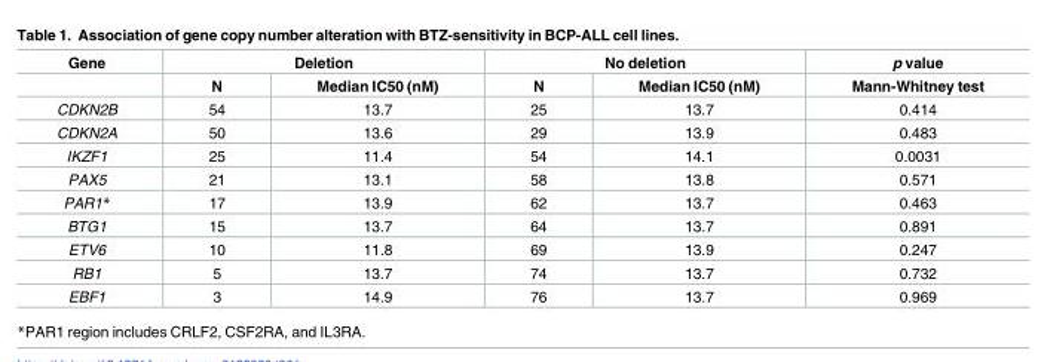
<table><thead><tr><td rowspan="2">Gene</td><td colspan="2">Deletion</td><td colspan="2">No deletion</td><td rowspan="2">p value Mann-Whitney test</td></tr><tr><td>N</td><td>Median IC50 (nM)</td><td>N</td><td>Median IC50 (nM)</td></tr></thead><tbody><tr><td>CDKN2B</td><td>54</td><td>13.7</td><td>25</td><td>13.7</td><td>0.414</td></tr><tr><td>CDKN2A</td><td>50</td><td>13.6</td><td>29</td><td>13.9</td><td>0.483</td></tr><tr><td>IKZF1</td><td>25</td><td>11.4</td><td>54</td><td>14.1</td><td>0.0031</td></tr><tr><td>PAX5</td><td>21</td><td>13.1</td><td>58</td><td>13.8</td><td>0.571</td></tr><tr><td>PAR1*</td><td>17</td><td>13.9</td><td>62</td><td>13.7</td><td>0.463</td></tr><tr><td>BTG1</td><td>15</td><td>13.7</td><td>64</td><td>13.7</td><td>0.891</td></tr><tr><td>ETV6</td><td>10</td><td>11.8</td><td>69</td><td>13.9</td><td>0.247</td></tr><tr><td>RB1</td><td>5</td><td>13.7</td><td>74</td><td>13.7</td><td>0.732</td></tr><tr><td>EBF1</td><td>3</td><td>14.9</td><td>76</td><td>13.7</td><td>0.969</td></tr></tbody></table>